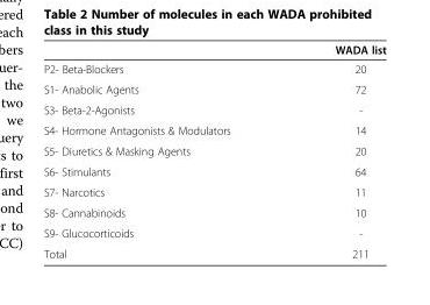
<table><thead><tr><td></td><td>WADA list</td></tr></thead><tbody><tr><td>P2- Beta-Blockers</td><td>20</td></tr><tr><td>S1- Anabolic Agents</td><td>72</td></tr><tr><td>S3- Beta-2-Agonists</td><td>-</td></tr><tr><td>S4- Hormone Antagonists &amp; Modulators</td><td>14</td></tr><tr><td>S5- Diuretics &amp; Masking Agents</td><td>20</td></tr><tr><td>S6- Stimulants</td><td>64</td></tr><tr><td>S7- Narcotics</td><td>11</td></tr><tr><td>S8- Cannabinoids</td><td>10</td></tr><tr><td>S9- Glucocorticoids</td><td>-</td></tr><tr><td>Total</td><td>211</td></tr></tbody></table>